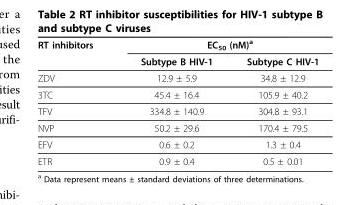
<table><thead><tr><td rowspan="2">RT inhibitors</td><td colspan="2">EC<sub>50</sub> (nM)<sup>a</sup></td></tr><tr><td>Subtype B HIV-1</td><td>Subtype C HIV-1</td></tr></thead><tbody><tr><td>ZDV</td><td>12.9 ± 5.9</td><td>34.8 ± 12.9</td></tr><tr><td>3TC</td><td>45.4 ± 16.4</td><td>105.9 ± 40.2</td></tr><tr><td>TFV</td><td>334.8 ± 140.9</td><td>304.8 ± 93.1</td></tr><tr><td>NVP</td><td>50.2 ± 29.6</td><td>170.4 ± 79.5</td></tr><tr><td>EFV</td><td>0.6 ± 0.2</td><td>1.3 ± 0.4</td></tr><tr><td>ETR</td><td>0.9 ± 0.4</td><td>0.5 ± 0.01</td></tr></tbody></table>